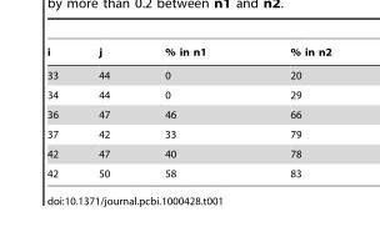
<table><thead><tr><td>i</td><td>j</td><td>% in n1</td><td>% in n2</td></tr></thead><tbody><tr><td>33</td><td>44</td><td>0</td><td>20</td></tr><tr><td>34</td><td>44</td><td>0</td><td>29</td></tr><tr><td>36</td><td>47</td><td>46</td><td>66</td></tr><tr><td>37</td><td>42</td><td>33</td><td>79</td></tr><tr><td>42</td><td>47</td><td>40</td><td>78</td></tr><tr><td>42</td><td>50</td><td>58</td><td>83</td></tr></tbody></table>